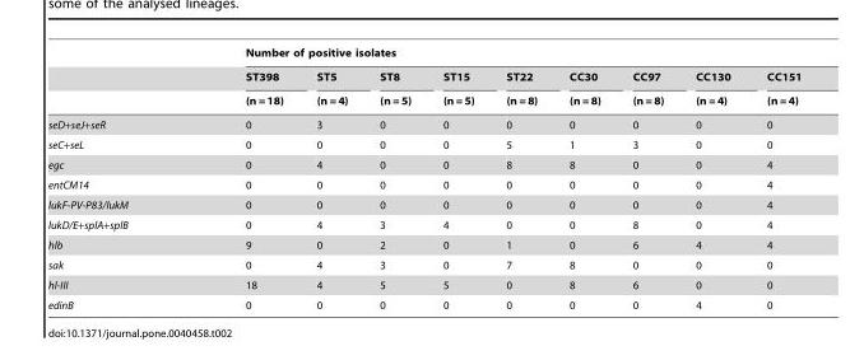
<table><thead><tr><td rowspan="3"></td><td colspan="9">Number of positive isolates</td></tr><tr><td rowspan="2">ST398 (n = 18)</td><td rowspan="2">ST5 (n = 4)</td><td rowspan="2">ST8 (n = 5)</td><td rowspan="2">ST15 (n = 5)</td><td rowspan="2">ST22 (n = 8)</td><td rowspan="2">CC30 (n = 8)</td><td rowspan="2">CC97 (n = 8)</td><td rowspan="2">CC130 (n = 4)</td><td rowspan="2">CC151 (n = 4)</td></tr><tr></tr></thead><tbody><tr><td>seD+seJ+seR</td><td>0</td><td>3</td><td>0</td><td>0</td><td>0</td><td>0</td><td>0</td><td>0</td><td>0</td></tr><tr><td>seC+seL</td><td>0</td><td>0</td><td>0</td><td>0</td><td>5</td><td>1</td><td>3</td><td>0</td><td>0</td></tr><tr><td>egc</td><td>0</td><td>4</td><td>0</td><td>0</td><td>8</td><td>8</td><td>0</td><td>0</td><td>4</td></tr><tr><td>entCM14</td><td>0</td><td>0</td><td>0</td><td>0</td><td>0</td><td>0</td><td>0</td><td>0</td><td>4</td></tr><tr><td>lukF-PV-P83/lukM</td><td>0</td><td>0</td><td>0</td><td>0</td><td>0</td><td>0</td><td>0</td><td>0</td><td>4</td></tr><tr><td>lukD/E+splA+splB</td><td>0</td><td>4</td><td>3</td><td>4</td><td>0</td><td>0</td><td>8</td><td>0</td><td>4</td></tr><tr><td>hlb</td><td>9</td><td>0</td><td>2</td><td>0</td><td>1</td><td>0</td><td>6</td><td>4</td><td>4</td></tr><tr><td>sak</td><td>0</td><td>4</td><td>3</td><td>0</td><td>7</td><td>8</td><td>0</td><td>0</td><td>0</td></tr><tr><td>hl-III</td><td>18</td><td>4</td><td>5</td><td>5</td><td>0</td><td>8</td><td>6</td><td>0</td><td>0</td></tr><tr><td>edinB</td><td>0</td><td>0</td><td>0</td><td>0</td><td>0</td><td>0</td><td>0</td><td>4</td><td>0</td></tr></tbody></table>